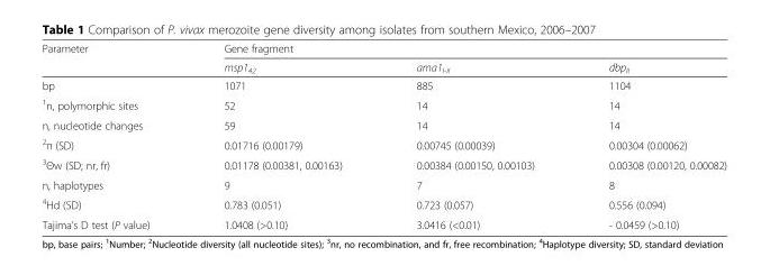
<table><thead><tr><td rowspan="2">Parameter</td><td colspan="3">Gene fragment</td></tr><tr><td>msp1<sub>42</sub></td><td>ama1<sub>I-II</sub></td><td>dbp<sub>II</sub></td></tr></thead><tbody><tr><td>bp</td><td>1071</td><td>885</td><td>1104</td></tr><tr><td><sup>1</sup>n, polymorphic sites</td><td>52</td><td>14</td><td>14</td></tr><tr><td>n, nucleotide changes</td><td>59</td><td>14</td><td>14</td></tr><tr><td><sup>2</sup>π (SD)</td><td>0.01716 (0.00179)</td><td>0.00745 (0.00039)</td><td>0.00304 (0.00062)</td></tr><tr><td><sup>3</sup>Θw (SD; nr, fr)</td><td>0.01178 (0.00381, 0.00163)</td><td>0.00384 (0.00150, 0.00103)</td><td>0.00308 (0.00120, 0.00082)</td></tr><tr><td>n, haplotypes</td><td>9</td><td>7</td><td>8</td></tr><tr><td><sup>4</sup>Hd (SD)</td><td>0.783 (0.051)</td><td>0.723 (0.057)</td><td>0.556 (0.094)</td></tr><tr><td>Tajima’s D test (P value)</td><td>1.0408 (&gt;0.10)</td><td>3.0416 (&lt;0.01)</td><td>- 0.0459 (&gt;0.10)</td></tr></tbody></table>